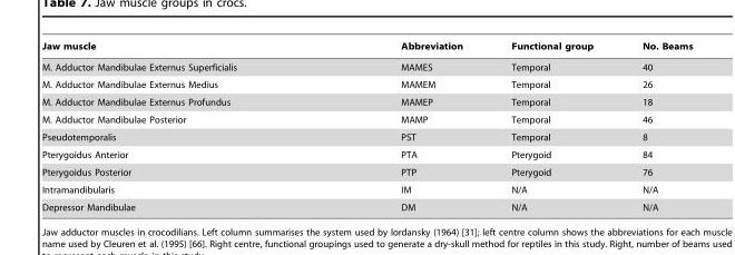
<table><thead><tr><td>Jaw muscle</td><td>Abbreviation</td><td>Functional group</td><td>No. Beams</td></tr></thead><tbody><tr><td>M. Adductor Mandibulae Externus Superficialis</td><td>MAMES</td><td>Temporal</td><td>40</td></tr><tr><td>M. Adductor Mandibulae Externus Medius</td><td>MAMEM</td><td>Temporal</td><td>26</td></tr><tr><td>M. Adductor Mandibulae Externus Profundus</td><td>MAMEP</td><td>Temporal</td><td>18</td></tr><tr><td>M. Adductor Mandibulae Posterior</td><td>MAMP</td><td>Temporal</td><td>46</td></tr><tr><td>Pseudotemporalis</td><td>PST</td><td>Temporal</td><td>8</td></tr><tr><td>Pterygoidus Anterior</td><td>PTA</td><td>Pterygoid</td><td>84</td></tr><tr><td>Pterygoidus Posterior</td><td>PTP</td><td>Pterygoid</td><td>76</td></tr><tr><td>Intramandibularis</td><td>IM</td><td>N/A</td><td>N/A</td></tr><tr><td>Depressor Mandibulae</td><td>DM</td><td>N/A</td><td>N/A</td></tr></tbody></table>